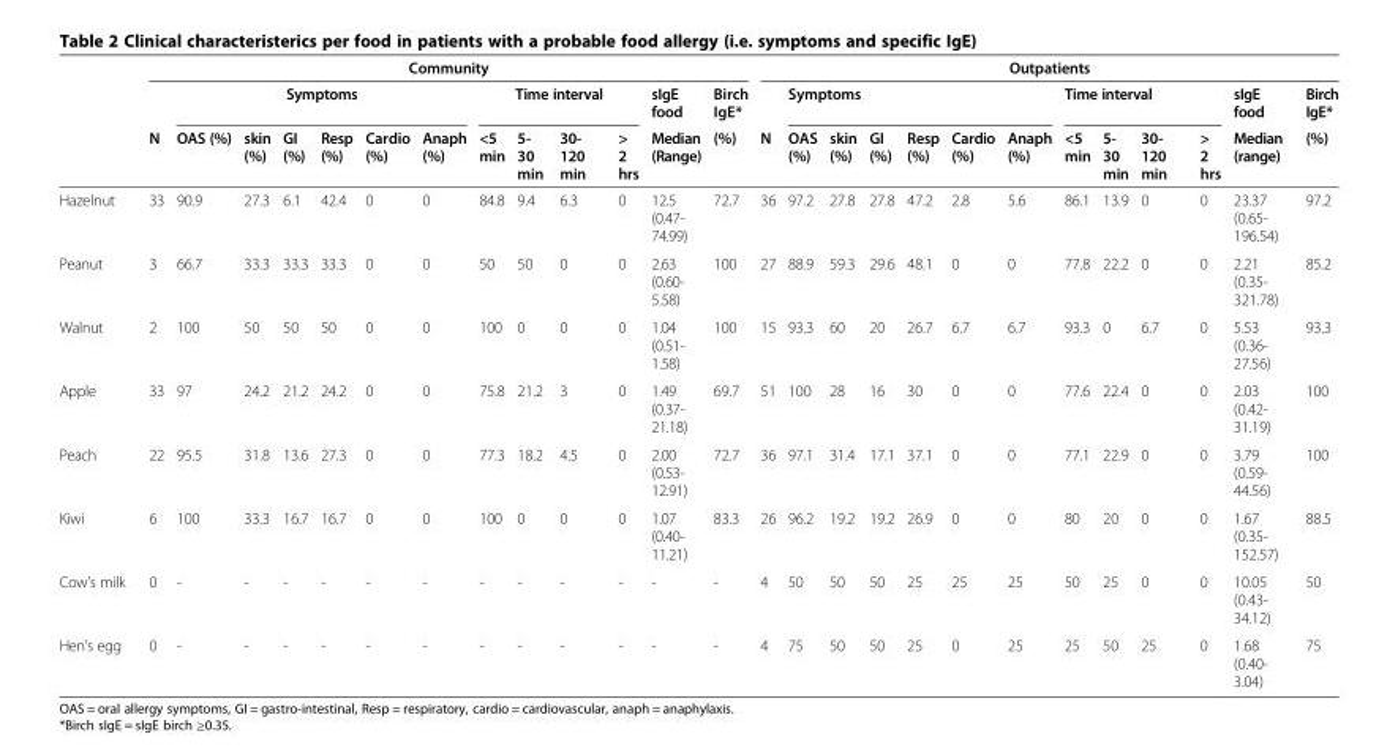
<table><thead><tr><td rowspan="3"></td><td colspan="13">Community</td><td colspan="13">Outpatients</td></tr><tr><td rowspan="2">N</td><td colspan="6">Symptoms</td><td colspan="4">Time interval</td><td rowspan="2">sIgE food Median (Range)</td><td rowspan="2">Birch IgE* (%)</td><td rowspan="2">N</td><td colspan="6">Symptoms</td><td colspan="4">Time interval</td><td rowspan="2">sIgE food Median (range)</td><td rowspan="2">Birch IgE* (%)</td></tr><tr><td>OAS (%)</td><td>skin (%)</td><td>GI (%)</td><td>Resp (%)</td><td>Cardio (%)</td><td>Anaph (%)</td><td>&lt;5 min</td><td>5- 30 min</td><td>30- 120 min</td><td>&gt; 2 hrs</td><td>OAS (%)</td><td>skin (%)</td><td>GI (%)</td><td>Resp (%)</td><td>Cardio (%)</td><td>Anaph (%)</td><td>&lt;5 min</td><td>5- 30 min</td><td>30- 120 min</td><td>&gt; 2 hrs</td></tr></thead><tbody><tr><td>Hazelnut</td><td>33</td><td>90.9</td><td>27.3</td><td>6.1</td><td>42.4</td><td>0</td><td>0</td><td>84.8</td><td>9.4</td><td>6.3</td><td>0</td><td>12.5 (0.47- 74.99)</td><td>72.7</td><td>36</td><td>97.2</td><td>27.8</td><td>27.8</td><td>47.2</td><td>2.8</td><td>5.6</td><td>86.1</td><td>13.9</td><td>0</td><td>0</td><td>23.37 (0.65- 196.54)</td><td>97.2</td></tr><tr><td>Peanut</td><td>3</td><td>66.7</td><td>33.3</td><td>33.3</td><td>33.3</td><td>0</td><td>0</td><td>50</td><td>50</td><td>0</td><td>0</td><td>2.63 (0.60- 5.58)</td><td>100</td><td>27</td><td>88.9</td><td>59.3</td><td>29.6</td><td>48.1</td><td>0</td><td>0</td><td>77.8</td><td>22.2</td><td>0</td><td>0</td><td>2.21 (0.35- 321.78)</td><td>85.2</td></tr><tr><td>Walnut</td><td>2</td><td>100</td><td>50</td><td>50</td><td>50</td><td>0</td><td>0</td><td>100</td><td>0</td><td>0</td><td>0</td><td>1.04 (0.51- 1.58)</td><td>100</td><td>15</td><td>93.3</td><td>60</td><td>20</td><td>26.7</td><td>6.7</td><td>6.7</td><td>93.3</td><td>0</td><td>6.7</td><td>0</td><td>5.53 (0.36- 27.56)</td><td>93.3</td></tr><tr><td>Apple</td><td>33</td><td>97</td><td>24.2</td><td>21.2</td><td>24.2</td><td>0</td><td>0</td><td>75.8</td><td>21.2</td><td>3</td><td>0</td><td>1.49 (0.37- 21.18)</td><td>69.7</td><td>51</td><td>100</td><td>28</td><td>16</td><td>30</td><td>0</td><td>0</td><td>77.6</td><td>22.4</td><td>0</td><td>0</td><td>2.03 (0.42- 31.19)</td><td>100</td></tr><tr><td>Peach</td><td>22</td><td>95.5</td><td>31.8</td><td>13.6</td><td>27.3</td><td>0</td><td>0</td><td>77.3</td><td>18.2</td><td>4.5</td><td>0</td><td>2.00 (0.53- 12.91)</td><td>72.7</td><td>36</td><td>97.1</td><td>31.4</td><td>17.1</td><td>37.1</td><td>0</td><td>0</td><td>77.1</td><td>22.9</td><td>0</td><td>0</td><td>3.79 (0.59- 44.56)</td><td>100</td></tr><tr><td>Kiwi</td><td>6</td><td>100</td><td>33.3</td><td>16.7</td><td>16.7</td><td>0</td><td>0</td><td>100</td><td>0</td><td>0</td><td>0</td><td>1.07 (0.40- 11.21)</td><td>83.3</td><td>26</td><td>96.2</td><td>19.2</td><td>19.2</td><td>26.9</td><td>0</td><td>0</td><td>80</td><td>20</td><td>0</td><td>0</td><td>1.67 (0.35- 152.57)</td><td>88.5</td></tr><tr><td>Cow’s milk</td><td>0</td><td>-</td><td>-</td><td>-</td><td>-</td><td>-</td><td>-</td><td>-</td><td>-</td><td>-</td><td>-</td><td>-</td><td>-</td><td>4</td><td>50</td><td>50</td><td>50</td><td>25</td><td>25</td><td>25</td><td>50</td><td>25</td><td>0</td><td>0</td><td>10.05 (0.43- 34.12)</td><td>50</td></tr><tr><td>Hen’s egg</td><td>0</td><td>-</td><td>-</td><td>-</td><td>-</td><td>-</td><td>-</td><td>-</td><td>-</td><td>-</td><td>-</td><td>-</td><td>-</td><td>4</td><td>75</td><td>50</td><td>50</td><td>25</td><td>0</td><td>25</td><td>25</td><td>50</td><td>25</td><td>0</td><td>1.68 (0.40- 3.04)</td><td>75</td></tr></tbody></table>